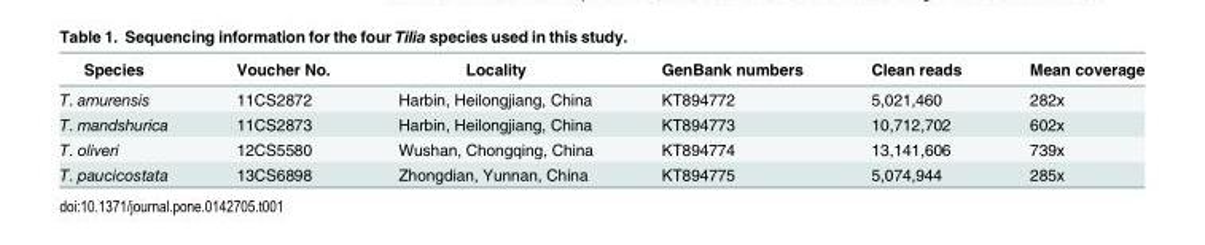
<table><thead><tr><td>Species</td><td>Voucher No.</td><td>Locality</td><td>GenBank numbers</td><td>Clean reads</td><td>Mean coverage</td></tr></thead><tbody><tr><td>T. amurensis</td><td>11CS2872</td><td>Harbin, Heilongjiang, China</td><td>KT894772</td><td>5,021,460</td><td>282x</td></tr><tr><td>T. mandshurica</td><td>11CS2873</td><td>Harbin, Heilongjiang, China</td><td>KT894773</td><td>10,712,702</td><td>602x</td></tr><tr><td>T. oliveri</td><td>12CS5580</td><td>Wushan, Chongqing, China</td><td>KT894774</td><td>13,141,606</td><td>739x</td></tr><tr><td>T. paucicostata</td><td>13CS6898</td><td>Zhongdian, Yunnan, China</td><td>KT894775</td><td>5,074,944</td><td>285x</td></tr></tbody></table>